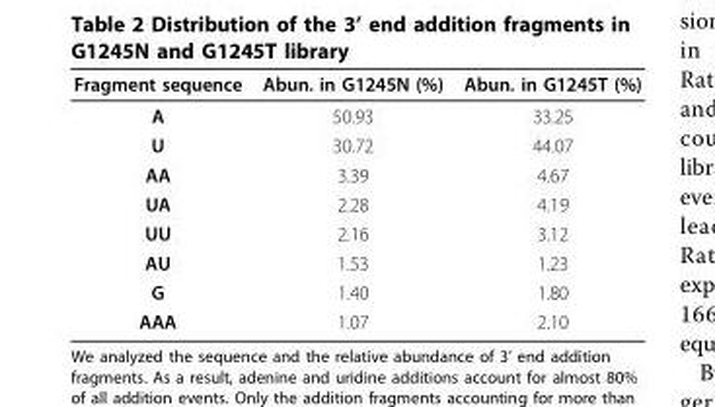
<table><thead><tr><td>Fragment sequence</td><td>Abun. in G1245N (%)</td><td>Abun. in G1245T (%)</td></tr></thead><tbody><tr><td>A</td><td>50.93</td><td>33.25</td></tr><tr><td>U</td><td>30.72</td><td>44.07</td></tr><tr><td>AA</td><td>3.39</td><td>4.67</td></tr><tr><td>UA</td><td>2.28</td><td>4.19</td></tr><tr><td>UU</td><td>2.16</td><td>3.12</td></tr><tr><td>AU</td><td>1.53</td><td>1.23</td></tr><tr><td>G</td><td>1.40</td><td>1.80</td></tr><tr><td>AAA</td><td>1.07</td><td>2.10</td></tr></tbody></table>